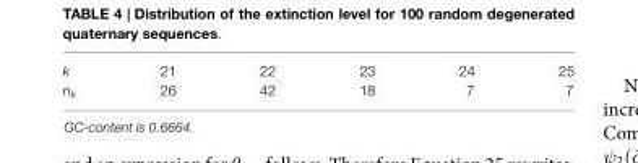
<table><tbody><tr><td>k</td><td>21</td><td>22</td><td>23</td><td>24</td><td>25</td></tr><tr><td>n<sub>k</sub></td><td>26</td><td>42</td><td>18</td><td>7</td><td>7</td></tr></tbody></table>